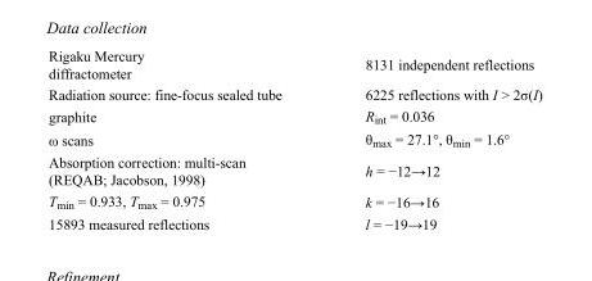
<table><tbody><tr><td>Rigaku Mercury diffractometer</td><td>8131 independent reflections</td></tr><tr><td>Radiation source: fine-focus sealed tube</td><td>6225 reflections with I &gt; 2σ(I)</td></tr><tr><td>graphite</td><td>R<sub>int</sub> = 0.036</td></tr><tr><td>ω scans</td><td>θ<sub>max</sub> = 27.1°, θ<sub>min</sub> = 1.6°</td></tr><tr><td>Absorption correction: multi-scan (REQAB; Jacobson, 1998)</td><td>h = −12→12</td></tr><tr><td>T<sub>min</sub> = 0.933, T<sub>max</sub> = 0.975</td><td>k = −16→16</td></tr><tr><td>15893 measured reflections</td><td>l = −19→19</td></tr></tbody></table>